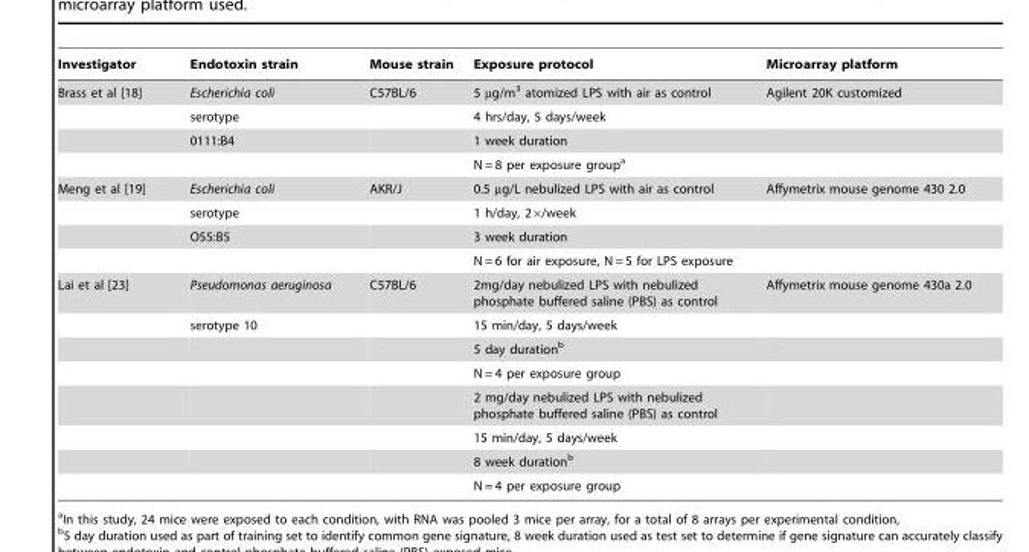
<table><thead><tr><td>Investigator</td><td>Endotoxin strain</td><td>Mouse strain</td><td>Exposure protocol</td><td>Microarray platform</td></tr></thead><tbody><tr><td rowspan="4">Brass et al [18]</td><td>Escherichia coli</td><td>C57BL/6</td><td>5 µg/m<sup>3</sup> atomized LPS with air as control</td><td>Agilent 20K customized</td></tr><tr><td>serotype</td><td></td><td>4 hrs/day, 5 days/week</td><td></td></tr><tr><td>0111:B4</td><td></td><td>1 week duration</td><td></td></tr><tr><td></td><td></td><td>N = 8 per exposure group<sup>a</sup></td><td></td></tr><tr><td rowspan="4">Meng et al [19]</td><td>Escherichia coli</td><td>AKR/J</td><td>0.5 µg/L nebulized LPS with air as control</td><td>Affymetrix mouse genome 430 2.0</td></tr><tr><td>serotype</td><td></td><td>1 h/day, 2×/week</td><td></td></tr><tr><td>O55:B5</td><td></td><td>3 week duration</td><td></td></tr><tr><td></td><td></td><td>N = 6 for air exposure, N = 5 for LPS exposure</td><td></td></tr><tr><td rowspan="8">Lai et al [23]</td><td>Pseudomonas aeruginosa</td><td>C57BL/6</td><td>2mg/day nebulized LPS with nebulized phosphate buffered saline (PBS) as control</td><td>Affymetrix mouse genome 430a 2.0</td></tr><tr><td>serotype 10</td><td></td><td>15 min/day, 5 days/week</td><td></td></tr><tr><td></td><td></td><td>5 day duration<sup>b</sup></td><td></td></tr><tr><td></td><td></td><td>N = 4 per exposure group</td><td></td></tr><tr><td></td><td></td><td>2 mg/day nebulized LPS with nebulized phosphate buffered saline (PBS) as control</td><td></td></tr><tr><td></td><td></td><td>15 min/day, 5 days/week</td><td></td></tr><tr><td></td><td></td><td>8 week duration<sup>b</sup></td><td></td></tr><tr><td></td><td></td><td>N = 4 per exposure group</td><td></td></tr></tbody></table>